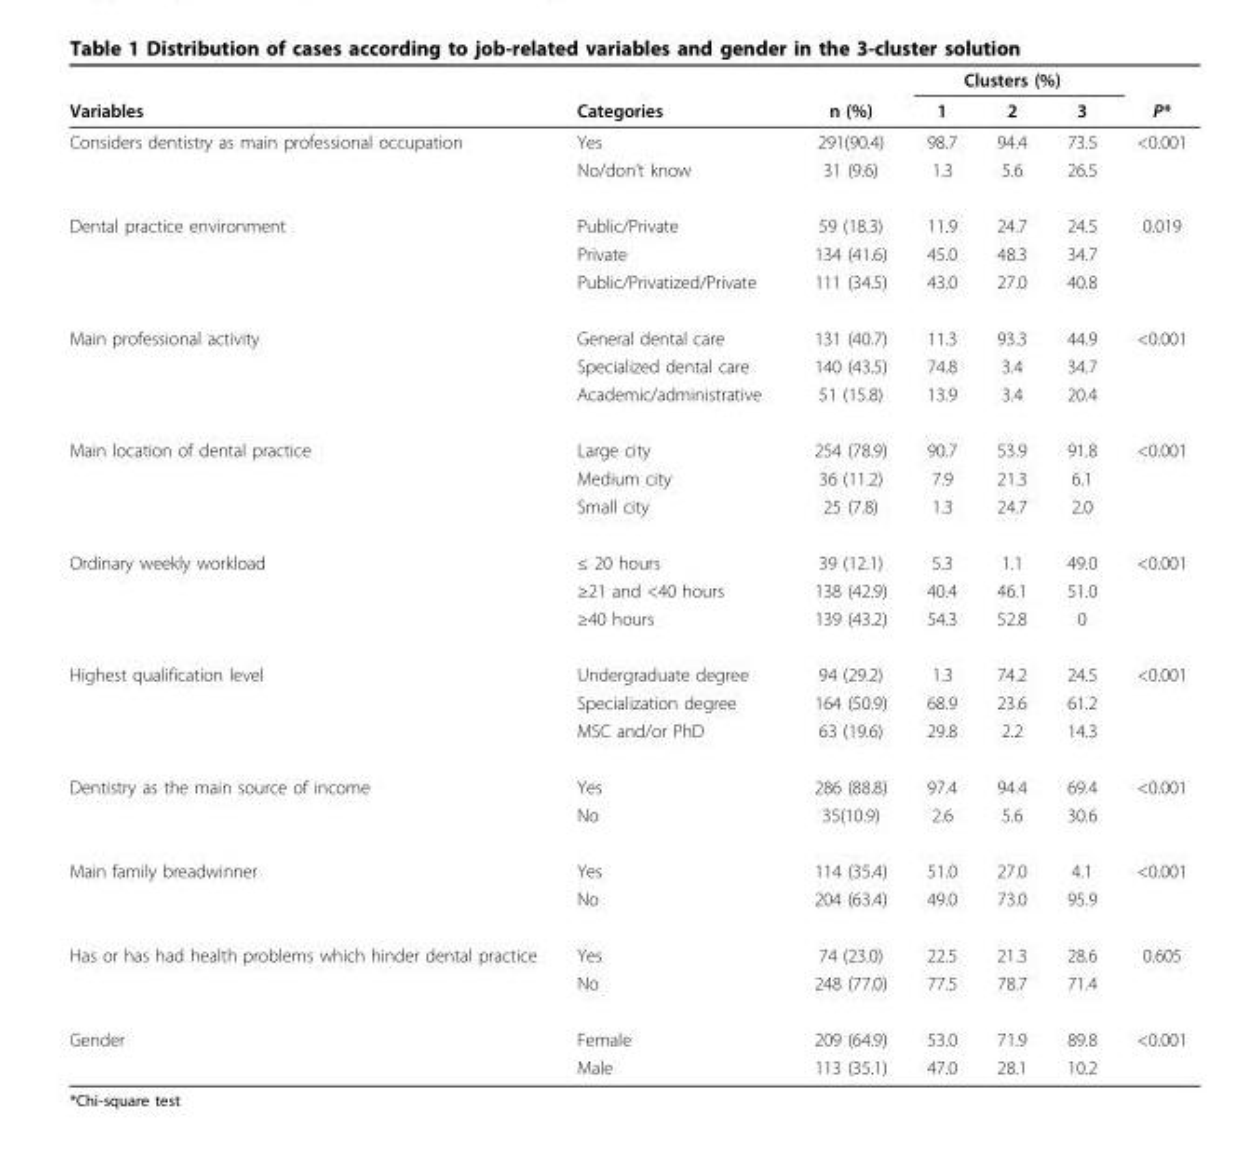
<table><thead><tr><td rowspan="2">Variables</td><td rowspan="2">Categories</td><td rowspan="2">n (%)</td><td colspan="3">Clusters (%)</td><td rowspan="2">P*</td></tr><tr><td>1</td><td>2</td><td>3</td></tr></thead><tbody><tr><td rowspan="2">Considers dentistry as main professional occupation</td><td>Yes</td><td>291(90.4)</td><td>98.7</td><td>94.4</td><td>73.5</td><td>&lt;0.001</td></tr><tr><td>No/don’t know</td><td>31 (9.6)</td><td>1.3</td><td>5.6</td><td>26.5</td><td></td></tr><tr><td rowspan="3">Dental practice environment</td><td>Public/Private</td><td>59 (18.3)</td><td>11.9</td><td>24.7</td><td>24.5</td><td>0.019</td></tr><tr><td>Private</td><td>134 (41.6)</td><td>45.0</td><td>48.3</td><td>34.7</td><td></td></tr><tr><td>Public/Privatized/Private</td><td>111 (34.5)</td><td>43.0</td><td>27.0</td><td>40.8</td><td></td></tr><tr><td rowspan="3">Main professional activity</td><td>General dental care</td><td>131 (40.7)</td><td>11.3</td><td>93.3</td><td>44.9</td><td>&lt;0.001</td></tr><tr><td>Specialized dental care</td><td>140 (43.5)</td><td>74.8</td><td>3.4</td><td>34.7</td><td></td></tr><tr><td>Academic/administrative</td><td>51 (15.8)</td><td>13.9</td><td>3.4</td><td>20.4</td><td></td></tr><tr><td rowspan="3">Main location of dental practice</td><td>Large city</td><td>254 (78.9)</td><td>90.7</td><td>53.9</td><td>91.8</td><td>&lt;0.001</td></tr><tr><td>Medium city</td><td>36 (11.2)</td><td>7.9</td><td>21.3</td><td>6.1</td><td></td></tr><tr><td>Small city</td><td>25 (7.8)</td><td>1.3</td><td>24.7</td><td>2.0</td><td></td></tr><tr><td rowspan="3">Ordinary weekly workload</td><td>≤ 20 hours</td><td>39 (12.1)</td><td>5.3</td><td>1.1</td><td>49.0</td><td>&lt;0.001</td></tr><tr><td>≥21 and &lt;40 hours</td><td>138 (42.9)</td><td>40.4</td><td>46.1</td><td>51.0</td><td></td></tr><tr><td>≥40 hours</td><td>139 (43.2)</td><td>54.3</td><td>52.8</td><td>0</td><td></td></tr><tr><td rowspan="3">Highest qualification level</td><td>Undergraduate degree</td><td>94 (29.2)</td><td>1.3</td><td>74.2</td><td>24.5</td><td>&lt;0.001</td></tr><tr><td>Specialization degree</td><td>164 (50.9)</td><td>68.9</td><td>23.6</td><td>61.2</td><td></td></tr><tr><td>MSC and/or PhD</td><td>63 (19.6)</td><td>29.8</td><td>2.2</td><td>14.3</td><td></td></tr><tr><td rowspan="2">Dentistry as the main source of income</td><td>Yes</td><td>286 (88.8)</td><td>97.4</td><td>94.4</td><td>69.4</td><td>&lt;0.001</td></tr><tr><td>No</td><td>35(10.9)</td><td>2.6</td><td>5.6</td><td>30.6</td><td></td></tr><tr><td rowspan="2">Main family breadwinner</td><td>Yes</td><td>114 (35.4)</td><td>51.0</td><td>27.0</td><td>4.1</td><td>&lt;0.001</td></tr><tr><td>No</td><td>204 (63.4)</td><td>49.0</td><td>73.0</td><td>95.9</td><td></td></tr><tr><td rowspan="2">Has or has had health problems which hinder dental practice</td><td>Yes</td><td>74 (23.0)</td><td>22.5</td><td>21.3</td><td>28.6</td><td>0.605</td></tr><tr><td>No</td><td>248 (77.0)</td><td>77.5</td><td>78.7</td><td>71.4</td><td></td></tr><tr><td rowspan="2">Gender</td><td>Female</td><td>209 (64.9)</td><td>53.0</td><td>71.9</td><td>89.8</td><td>&lt;0.001</td></tr><tr><td>Male</td><td>113 (35.1)</td><td>47.0</td><td>28.1</td><td>10.2</td><td></td></tr></tbody></table>